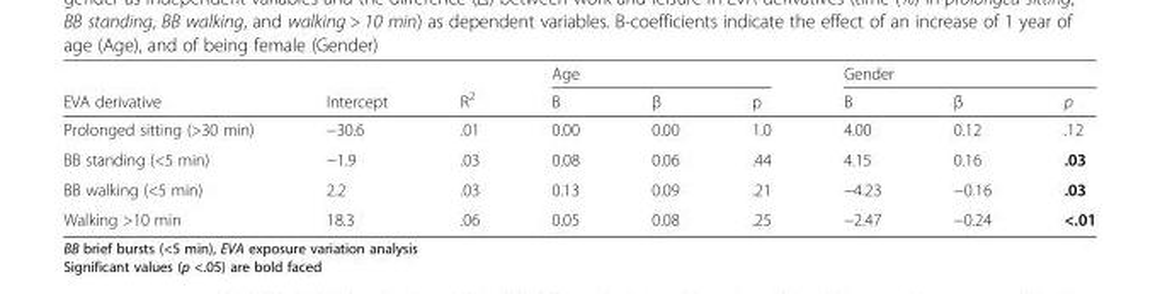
<table><thead><tr><td rowspan="2">EVA derivative</td><td rowspan="2">Intercept</td><td rowspan="2">R<sup>2</sup></td><td colspan="3">Age</td><td colspan="3">Gender</td></tr><tr><td>B</td><td>β</td><td>p</td><td>B</td><td>β</td><td>p</td></tr></thead><tbody><tr><td>Prolonged sitting (&gt;30 min)</td><td>−30.6</td><td>.01</td><td>0.00</td><td>0.00</td><td>1.0</td><td>4.00</td><td>0.12</td><td>.12</td></tr><tr><td>BB standing (&lt;5 min)</td><td>−1.9</td><td>.03</td><td>0.08</td><td>0.06</td><td>.44</td><td>4.15</td><td>0.16</td><td>.03</td></tr><tr><td>BB walking (&lt;5 min)</td><td>2.2</td><td>.03</td><td>0.13</td><td>0.09</td><td>.21</td><td>−4.23</td><td>−0.16</td><td>.03</td></tr><tr><td>Walking &gt;10 min</td><td>18.3</td><td>.06</td><td>0.05</td><td>0.08</td><td>.25</td><td>−2.47</td><td>−0.24</td><td>&lt;.01</td></tr></tbody></table>